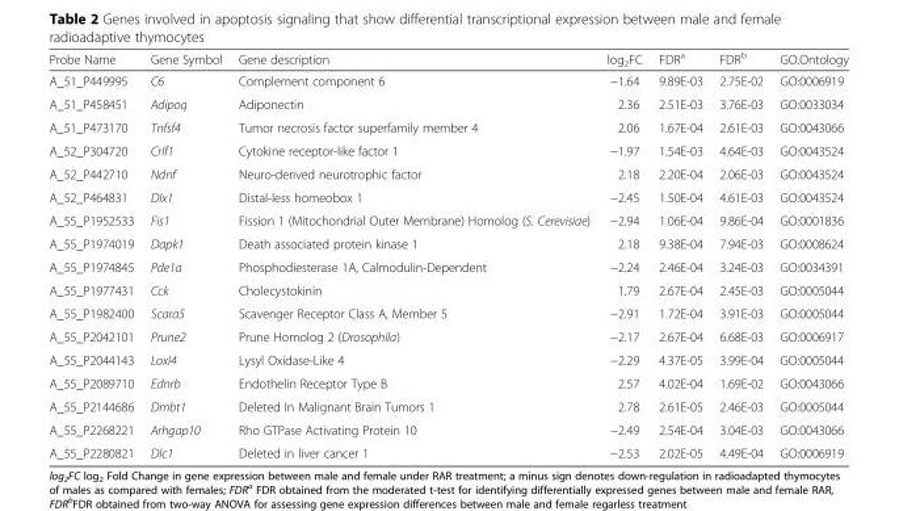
<table><thead><tr><td>Probe Name</td><td>Gene Symbol</td><td>Gene description</td><td>log<sub>2</sub>FC</td><td>FDR<sup>a</sup></td><td>FDR<sup>b</sup></td><td>GO.Ontology</td></tr></thead><tbody><tr><td>A_51_P449995</td><td>C6</td><td>Complement component 6</td><td>−1.64</td><td>9.89E-03</td><td>2.75E-02</td><td>GO:0006919</td></tr><tr><td>A_51_P458451</td><td>Adipoq</td><td>Adiponectin</td><td>2.36</td><td>2.51E-03</td><td>3.76E-03</td><td>GO:0033034</td></tr><tr><td>A_51_P473170</td><td>Tnfsf4</td><td>Tumor necrosis factor superfamily member 4</td><td>2.06</td><td>1.67E-04</td><td>2.61E-03</td><td>GO:0043066</td></tr><tr><td>A_52_P304720</td><td>Crlf1</td><td>Cytokine receptor-like factor 1</td><td>−1.97</td><td>1.54E-03</td><td>4.64E-03</td><td>GO:0043524</td></tr><tr><td>A_52_P442710</td><td>Ndnf</td><td>Neuro-derived neurotrophic factor</td><td>2.18</td><td>2.20E-04</td><td>2.06E-03</td><td>GO:0043524</td></tr><tr><td>A_52_P464831</td><td>Dlx1</td><td>Distal-less homeobox 1</td><td>−2.45</td><td>1.50E-04</td><td>4.61E-03</td><td>GO:0043524</td></tr><tr><td>A_55_P1952533</td><td>Fis1</td><td>Fission 1 (Mitochondrial Outer Membrane) Homolog (S. Cerevisiae)</td><td>−2.94</td><td>1.06E-04</td><td>9.86E-04</td><td>GO:0001836</td></tr><tr><td>A_55_P1974019</td><td>Dapk1</td><td>Death associated protein kinase 1</td><td>2.18</td><td>9.38E-04</td><td>7.94E-03</td><td>GO:0008624</td></tr><tr><td>A_55_P1974845</td><td>Pde1a</td><td>Phosphodiesterase 1A, Calmodulin-Dependent</td><td>−2.24</td><td>2.46E-04</td><td>3.24E-03</td><td>GO:0034391</td></tr><tr><td>A_55_P1977431</td><td>Cck</td><td>Cholecystokinin</td><td>1.79</td><td>2.67E-04</td><td>2.45E-03</td><td>GO:0005044</td></tr><tr><td>A_55_P1982400</td><td>Scara5</td><td>Scavenger Receptor Class A, Member 5</td><td>−2.91</td><td>1.72E-04</td><td>3.91E-03</td><td>GO:0005044</td></tr><tr><td>A_55_P2042101</td><td>Prune2</td><td>Prune Homolog 2 (Drosophila)</td><td>−2.17</td><td>2.67E-04</td><td>6.68E-03</td><td>GO:0006917</td></tr><tr><td>A_55_P2044143</td><td>Loxl4</td><td>Lysyl Oxidase-Like 4</td><td>−2.29</td><td>4.37E-05</td><td>3.99E-04</td><td>GO:0005044</td></tr><tr><td>A_55_P2089710</td><td>Ednrb</td><td>Endothelin Receptor Type B</td><td>2.57</td><td>4.02E-04</td><td>1.69E-02</td><td>GO:0043066</td></tr><tr><td>A_55_P2144686</td><td>Dmbt1</td><td>Deleted In Malignant Brain Tumors 1</td><td>2.78</td><td>2.61E-05</td><td>2.46E-03</td><td>GO:0005044</td></tr><tr><td>A_55_P2268221</td><td>Arhgap10</td><td>Rho GTPase Activating Protein 10</td><td>−2.49</td><td>2.54E-04</td><td>3.04E-03</td><td>GO:0043066</td></tr><tr><td>A_55_P2280821</td><td>Dlc1</td><td>Deleted in liver cancer 1</td><td>−2.53</td><td>2.02E-05</td><td>4.49E-04</td><td>GO:0006919</td></tr></tbody></table>